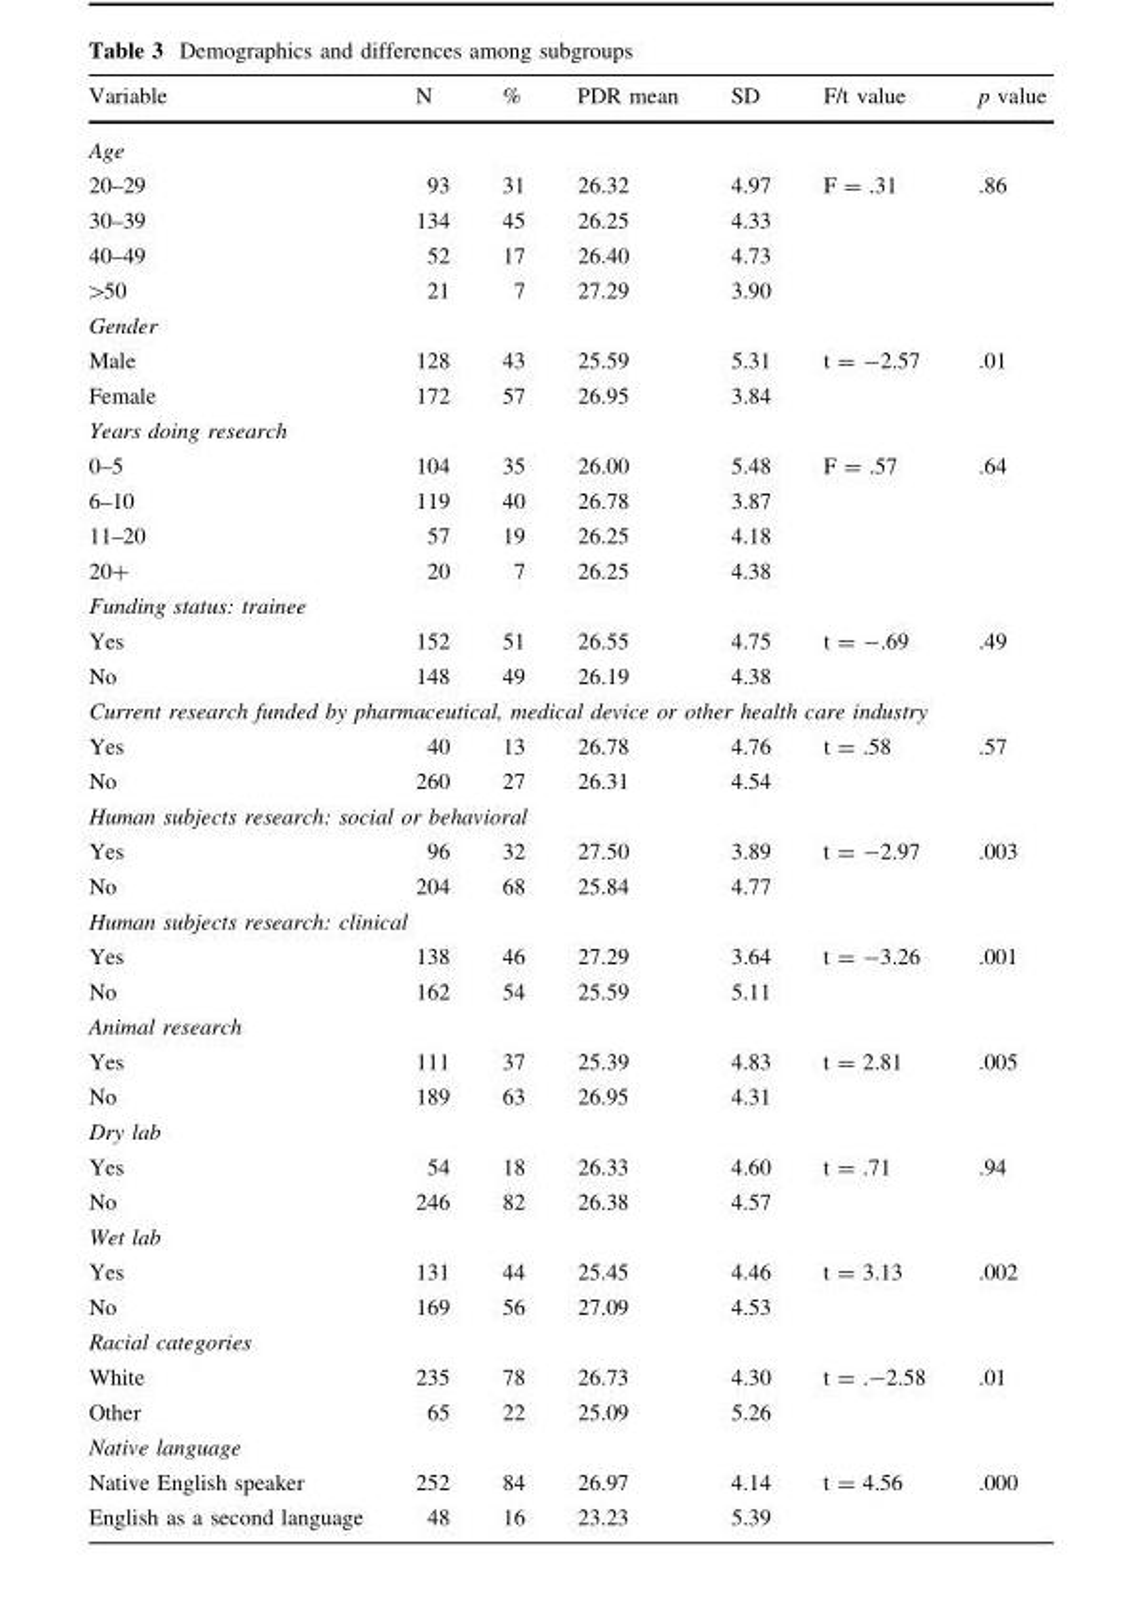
<table><thead><tr><td>Variable</td><td>N</td><td>%</td><td>PDR mean</td><td>SD</td><td>F/t value</td><td>p value</td></tr></thead><tbody><tr><td colspan="7">Age</td></tr><tr><td>20–29</td><td>93</td><td>31</td><td>26.32</td><td>4.97</td><td rowspan="4">F = .31</td><td rowspan="4">.86</td></tr><tr><td>30–39</td><td>134</td><td>45</td><td>26.25</td><td>4.33</td></tr><tr><td>40–49</td><td>52</td><td>17</td><td>26.40</td><td>4.73</td></tr><tr><td>&gt;50</td><td>21</td><td>7</td><td>27.29</td><td>3.90</td></tr><tr><td colspan="7">Gender</td></tr><tr><td>Male</td><td>128</td><td>43</td><td>25.59</td><td>5.31</td><td rowspan="2">t = -2.57</td><td rowspan="2">.01</td></tr><tr><td>Female</td><td>172</td><td>57</td><td>26.95</td><td>3.84</td></tr><tr><td colspan="7">Years doing research</td></tr><tr><td>0–5</td><td>104</td><td>35</td><td>26.00</td><td>5.48</td><td rowspan="4">F = .57</td><td rowspan="4">.64</td></tr><tr><td>6–10</td><td>119</td><td>40</td><td>26.78</td><td>3.87</td></tr><tr><td>11–20</td><td>57</td><td>19</td><td>26.25</td><td>4.18</td></tr><tr><td>20+</td><td>20</td><td>7</td><td>26.25</td><td>4.38</td></tr><tr><td colspan="7">Funding status: trainee</td></tr><tr><td>Yes</td><td>152</td><td>51</td><td>26.55</td><td>4.75</td><td rowspan="2">t = -.69</td><td rowspan="2">.49</td></tr><tr><td>No</td><td>148</td><td>49</td><td>26.19</td><td>4.38</td></tr><tr><td colspan="7">Current research funded by pharmaceutical, medical device or other health care industry</td></tr><tr><td>Yes</td><td>40</td><td>13</td><td>26.78</td><td>4.76</td><td rowspan="2">t = .58</td><td rowspan="2">.57</td></tr><tr><td>No</td><td>260</td><td>27</td><td>26.31</td><td>4.54</td></tr><tr><td colspan="7">Human subjects research: social or behavioral</td></tr><tr><td>Yes</td><td>96</td><td>32</td><td>27.50</td><td>3.89</td><td rowspan="2">t = -2.97</td><td rowspan="2">.003</td></tr><tr><td>No</td><td>204</td><td>68</td><td>25.84</td><td>4.77</td></tr><tr><td colspan="7">Human subjects research: clinical</td></tr><tr><td>Yes</td><td>138</td><td>46</td><td>27.29</td><td>3.64</td><td rowspan="2">t = -3.26</td><td rowspan="2">.001</td></tr><tr><td>No</td><td>162</td><td>54</td><td>25.59</td><td>5.11</td></tr><tr><td colspan="7">Animal research</td></tr><tr><td>Yes</td><td>111</td><td>37</td><td>25.39</td><td>4.83</td><td rowspan="2">t = 2.81</td><td rowspan="2">.005</td></tr><tr><td>No</td><td>189</td><td>63</td><td>26.95</td><td>4.31</td></tr><tr><td colspan="7">Dry lab</td></tr><tr><td>Yes</td><td>54</td><td>18</td><td>26.33</td><td>4.60</td><td rowspan="2">t = .71</td><td rowspan="2">.94</td></tr><tr><td>No</td><td>246</td><td>82</td><td>26.38</td><td>4.57</td></tr><tr><td colspan="7">Wet lab</td></tr><tr><td>Yes</td><td>131</td><td>44</td><td>25.45</td><td>4.46</td><td rowspan="2">t = 3.13</td><td rowspan="2">.002</td></tr><tr><td>No</td><td>169</td><td>56</td><td>27.09</td><td>4.53</td></tr><tr><td colspan="7">Racial categories</td></tr><tr><td>White</td><td>235</td><td>78</td><td>26.73</td><td>4.30</td><td rowspan="2">t = .-2.58</td><td rowspan="2">.01</td></tr><tr><td>Other</td><td>65</td><td>22</td><td>25.09</td><td>5.26</td></tr><tr><td colspan="7">Native language</td></tr><tr><td>Native English speaker</td><td>252</td><td>84</td><td>26.97</td><td>4.14</td><td rowspan="2">t = 4.56</td><td rowspan="2">.000</td></tr><tr><td>English as a second language</td><td>48</td><td>16</td><td>23.23</td><td>5.39</td></tr></tbody></table>